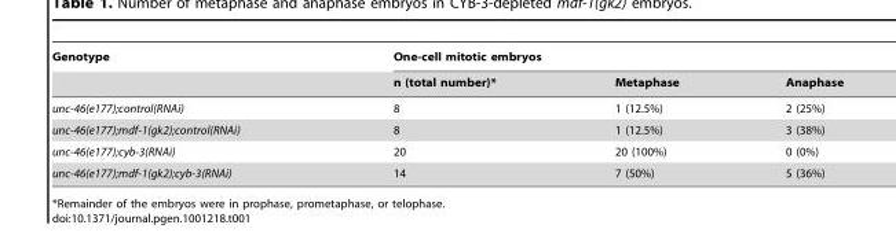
<table><thead><tr><td rowspan="2">Genotype</td><td colspan="3">One-cell mitotic embryos</td></tr><tr><td>n (total number)*</td><td>Metaphase</td><td>Anaphase</td></tr></thead><tbody><tr><td>unc-46(e177);control(RNAi)</td><td>8</td><td>1 (12.5%)</td><td>2 (25%)</td></tr><tr><td>unc-46(e177);mdf-1(gk2);control(RNAi)</td><td>8</td><td>1 (12.5%)</td><td>3 (38%)</td></tr><tr><td>unc-46(e177);cyb-3(RNAi)</td><td>20</td><td>20 (100%)</td><td>0 (0%)</td></tr><tr><td>unc-46(e177);mdf-1(gk2);cyb-3(RNAi)</td><td>14</td><td>7 (50%)</td><td>5 (36%)</td></tr></tbody></table>